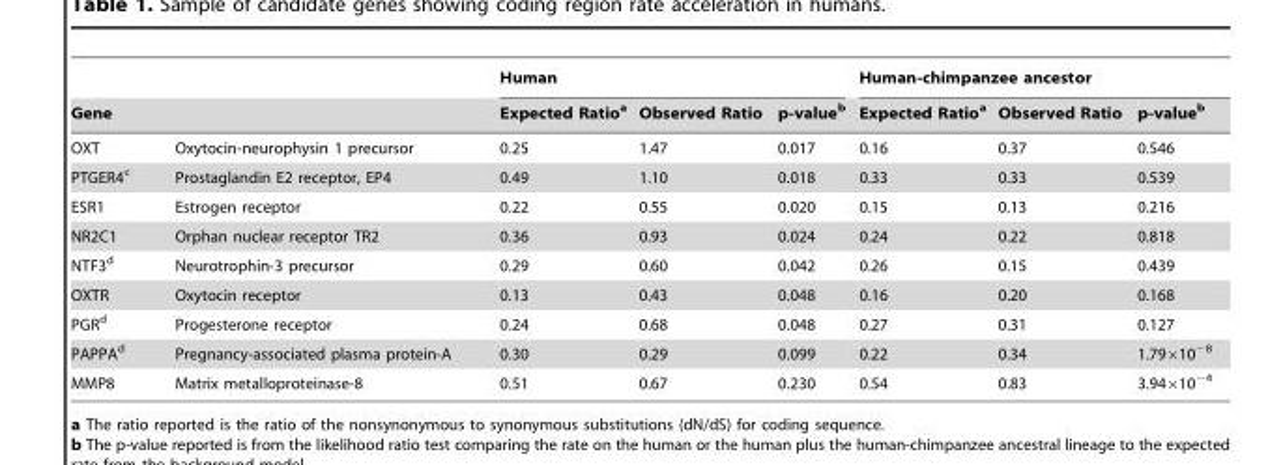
<table><thead><tr><td></td><td></td><td colspan="3">Human</td><td colspan="3">Human-chimpanzee ancestor</td></tr><tr><td colspan="2">Gene</td><td>Expected Ratio<sup>a</sup></td><td>Observed Ratio</td><td>p-value<sup>b</sup></td><td>Expected Ratio<sup>a</sup></td><td>Observed Ratio</td><td>p-value<sup>b</sup></td></tr></thead><tbody><tr><td>OXT</td><td>Oxytocin-neurophysin 1 precursor</td><td>0.25</td><td>1.47</td><td>0.017</td><td>0.16</td><td>0.37</td><td>0.546</td></tr><tr><td>PTGER4<sup>c</sup></td><td>Prostaglandin E2 receptor, EP4</td><td>0.49</td><td>1.10</td><td>0.018</td><td>0.33</td><td>0.33</td><td>0.539</td></tr><tr><td>ESR1</td><td>Estrogen receptor</td><td>0.22</td><td>0.55</td><td>0.020</td><td>0.15</td><td>0.13</td><td>0.216</td></tr><tr><td>NR2C1</td><td>Orphan nuclear receptor TR2</td><td>0.36</td><td>0.93</td><td>0.024</td><td>0.24</td><td>0.22</td><td>0.818</td></tr><tr><td>NTF3<sup>d</sup></td><td>Neurotrophin-3 precursor</td><td>0.29</td><td>0.60</td><td>0.042</td><td>0.26</td><td>0.15</td><td>0.439</td></tr><tr><td>OXTR</td><td>Oxytocin receptor</td><td>0.13</td><td>0.43</td><td>0.048</td><td>0.16</td><td>0.20</td><td>0.168</td></tr><tr><td>PGR<sup>d</sup></td><td>Progesterone receptor</td><td>0.24</td><td>0.68</td><td>0.048</td><td>0.27</td><td>0.31</td><td>0.127</td></tr><tr><td>PAPPA<sup>d</sup></td><td>Pregnancy-associated plasma protein-A</td><td>0.30</td><td>0.29</td><td>0.099</td><td>0.22</td><td>0.34</td><td>1.79×10<sup>−8</sup></td></tr><tr><td>MMP8</td><td>Matrix metalloproteinase-8</td><td>0.51</td><td>0.67</td><td>0.230</td><td>0.54</td><td>0.83</td><td>3.94×10<sup>−4</sup></td></tr></tbody></table>